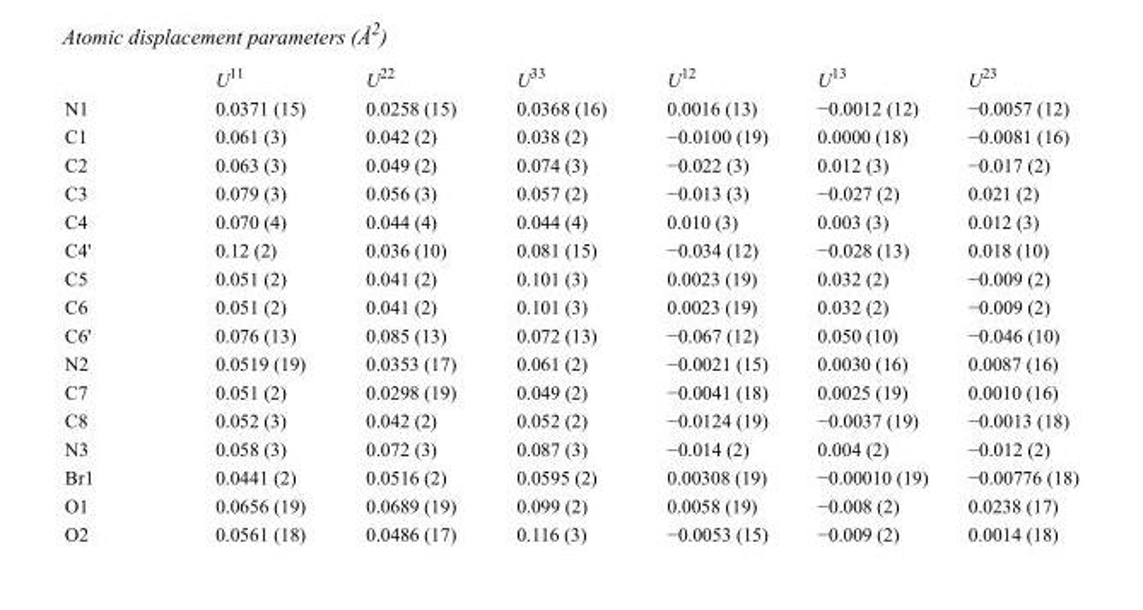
<table><thead><tr><td></td><td>U<sup>11</sup></td><td>U<sup>22</sup></td><td>U<sup>33</sup></td><td>U<sup>12</sup></td><td>U<sup>13</sup></td><td>U<sup>23</sup></td></tr></thead><tbody><tr><td>N1</td><td>0.0371 (15)</td><td>0.0258 (15)</td><td>0.0368 (16)</td><td>0.0016 (13)</td><td>−0.0012 (12)</td><td>−0.0057 (12)</td></tr><tr><td>C1</td><td>0.061 (3)</td><td>0.042 (2)</td><td>0.038 (2)</td><td>−0.0100 (19)</td><td>0.0000 (18)</td><td>−0.0081 (16)</td></tr><tr><td>C2</td><td>0.063 (3)</td><td>0.049 (2)</td><td>0.074 (3)</td><td>−0.022 (3)</td><td>0.012 (3)</td><td>−0.017 (2)</td></tr><tr><td>C3</td><td>0.079 (3)</td><td>0.056 (3)</td><td>0.057 (2)</td><td>−0.013 (3)</td><td>−0.027 (2)</td><td>0.021 (2)</td></tr><tr><td>C4</td><td>0.070 (4)</td><td>0.044 (4)</td><td>0.044 (4)</td><td>0.010 (3)</td><td>0.003 (3)</td><td>0.012 (3)</td></tr><tr><td>C4&#x27;</td><td>0.12 (2)</td><td>0.036 (10)</td><td>0.081 (15)</td><td>−0.034 (12)</td><td>−0.028 (13)</td><td>0.018 (10)</td></tr><tr><td>C5</td><td>0.051 (2)</td><td>0.041 (2)</td><td>0.101 (3)</td><td>0.0023 (19)</td><td>0.032 (2)</td><td>−0.009 (2)</td></tr><tr><td>C6</td><td>0.051 (2)</td><td>0.041 (2)</td><td>0.101 (3)</td><td>0.0023 (19)</td><td>0.032 (2)</td><td>−0.009 (2)</td></tr><tr><td>C6&#x27;</td><td>0.076 (13)</td><td>0.085 (13)</td><td>0.072 (13)</td><td>−0.067 (12)</td><td>0.050 (10)</td><td>−0.046 (10)</td></tr><tr><td>N2</td><td>0.0519 (19)</td><td>0.0353 (17)</td><td>0.061 (2)</td><td>−0.0021 (15)</td><td>0.0030 (16)</td><td>0.0087 (16)</td></tr><tr><td>C7</td><td>0.051 (2)</td><td>0.0298 (19)</td><td>0.049 (2)</td><td>−0.0041 (18)</td><td>0.0025 (19)</td><td>0.0010 (16)</td></tr><tr><td>C8</td><td>0.052 (3)</td><td>0.042 (2)</td><td>0.052 (2)</td><td>−0.0124 (19)</td><td>−0.0037 (19)</td><td>−0.0013 (18)</td></tr><tr><td>N3</td><td>0.058 (3)</td><td>0.072 (3)</td><td>0.087 (3)</td><td>−0.014 (2)</td><td>0.004 (2)</td><td>−0.012 (2)</td></tr><tr><td>Br1</td><td>0.0441 (2)</td><td>0.0516 (2)</td><td>0.0595 (2)</td><td>0.00308 (19)</td><td>−0.00010 (19)</td><td>−0.00776 (18)</td></tr><tr><td>O1</td><td>0.0656 (19)</td><td>0.0689 (19)</td><td>0.099 (2)</td><td>0.0058 (19)</td><td>−0.008 (2)</td><td>0.0238 (17)</td></tr><tr><td>O2</td><td>0.0561 (18)</td><td>0.0486 (17)</td><td>0.116 (3)</td><td>−0.0053 (15)</td><td>−0.009 (2)</td><td>0.0014 (18)</td></tr></tbody></table>